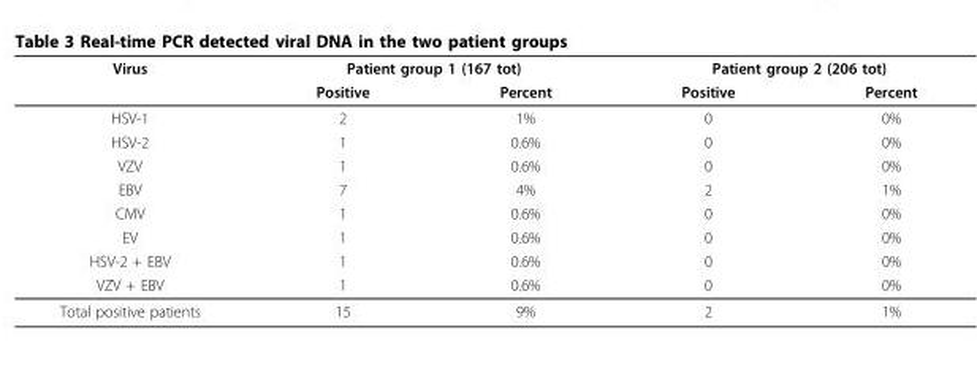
<table><thead><tr><td rowspan="2">Virus</td><td colspan="2">Patient group 1 (167 tot)</td><td colspan="2">Patient group 2 (206 tot)</td></tr><tr><td>Positive</td><td>Percent</td><td>Positive</td><td>Percent</td></tr></thead><tbody><tr><td>HSV-1</td><td>2</td><td>1%</td><td>0</td><td>0%</td></tr><tr><td>HSV-2</td><td>1</td><td>0.6%</td><td>0</td><td>0%</td></tr><tr><td>VZV</td><td>1</td><td>0.6%</td><td>0</td><td>0%</td></tr><tr><td>EBV</td><td>7</td><td>4%</td><td>2</td><td>1%</td></tr><tr><td>CMV</td><td>1</td><td>0.6%</td><td>0</td><td>0%</td></tr><tr><td>EV</td><td>1</td><td>0.6%</td><td>0</td><td>0%</td></tr><tr><td>HSV-2 + EBV</td><td>1</td><td>0.6%</td><td>0</td><td>0%</td></tr><tr><td>VZV + EBV</td><td>1</td><td>0.6%</td><td>0</td><td>0%</td></tr><tr><td>Total positive patients</td><td>15</td><td>9%</td><td>2</td><td>1%</td></tr></tbody></table>